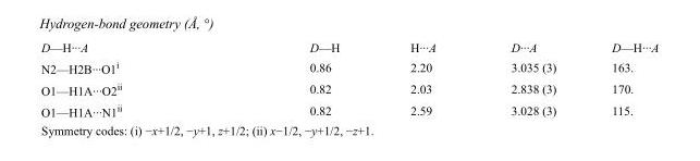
<table><tbody><tr><td>D—H···A</td><td>D—H</td><td>H···A</td><td>D···A</td><td>D—H···A</td></tr><tr><td>N2—H2B···O1<sup>i</sup></td><td>0.86</td><td>2.20</td><td>3.035 (3)</td><td>163.</td></tr><tr><td>O1—H1A···O2<sup>ii</sup></td><td>0.82</td><td>2.03</td><td>2.838 (3)</td><td>170.</td></tr><tr><td>O1—H1A···N1<sup>ii</sup></td><td>0.82</td><td>2.59</td><td>3.028 (3)</td><td>115.</td></tr></tbody></table>